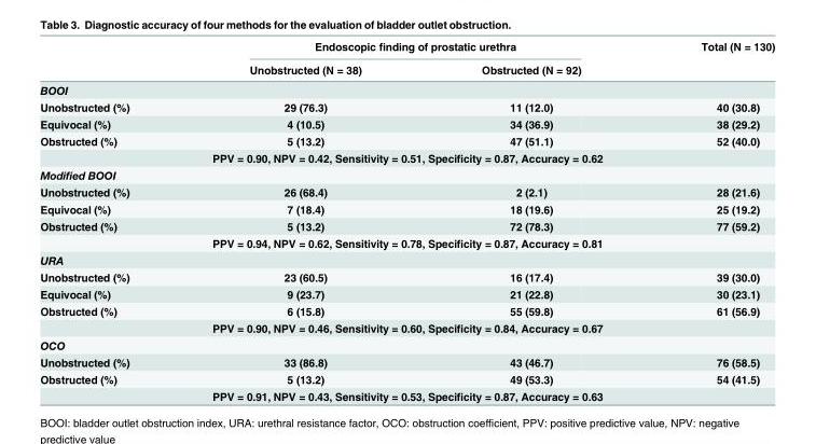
<table><thead><tr><td rowspan="2"></td><td colspan="2">Endoscopic finding of prostatic urethra</td><td rowspan="2">Total (N = 130)</td></tr><tr><td>Unobstructed (N = 38)</td><td>Obstructed (N = 92)</td></tr></thead><tbody><tr><td colspan="4">BOOI</td></tr><tr><td>Unobstructed (%)</td><td>29 (76.3)</td><td>11 (12.0)</td><td>40 (30.8)</td></tr><tr><td>Equivocal (%)</td><td>4 (10.5)</td><td>34 (36.9)</td><td>38 (29.2)</td></tr><tr><td>Obstructed (%)</td><td>5 (13.2)</td><td>47 (51.1)</td><td>52 (40.0)</td></tr><tr><td colspan="4">PPV = 0.90, NPV = 0.42, Sensitivity = 0.51, Specificity = 0.87, Accuracy = 0.62</td></tr><tr><td colspan="4">Modified BOOI</td></tr><tr><td>Unobstructed (%)</td><td>26 (68.4)</td><td>2 (2.1)</td><td>28 (21.6)</td></tr><tr><td>Equivocal (%)</td><td>7 (18.4)</td><td>18 (19.6)</td><td>25 (19.2)</td></tr><tr><td>Obstructed (%)</td><td>5 (13.2)</td><td>72 (78.3)</td><td>77 (59.2)</td></tr><tr><td colspan="4">PPV = 0.94, NPV = 0.62, Sensitivity = 0.78, Specificity = 0.87, Accuracy = 0.81</td></tr><tr><td colspan="4">URA</td></tr><tr><td>Unobstructed (%)</td><td>23 (60.5)</td><td>16 (17.4)</td><td>39 (30.0)</td></tr><tr><td>Equivocal (%)</td><td>9 (23.7)</td><td>21 (22.8)</td><td>30 (23.1)</td></tr><tr><td>Obstructed (%)</td><td>6 (15.8)</td><td>55 (59.8)</td><td>61 (56.9)</td></tr><tr><td colspan="4">PPV = 0.90, NPV = 0.46, Sensitivity = 0.60, Specificity = 0.84, Accuracy = 0.67</td></tr><tr><td colspan="4">OCO</td></tr><tr><td>Unobstructed (%)</td><td>33 (86.8)</td><td>43 (46.7)</td><td>76 (58.5)</td></tr><tr><td>Obstructed (%)</td><td>5 (13.2)</td><td>49 (53.3)</td><td>54 (41.5)</td></tr><tr><td colspan="4">PPV = 0.91, NPV = 0.43, Sensitivity = 0.53, Specificity = 0.87, Accuracy = 0.63</td></tr></tbody></table>